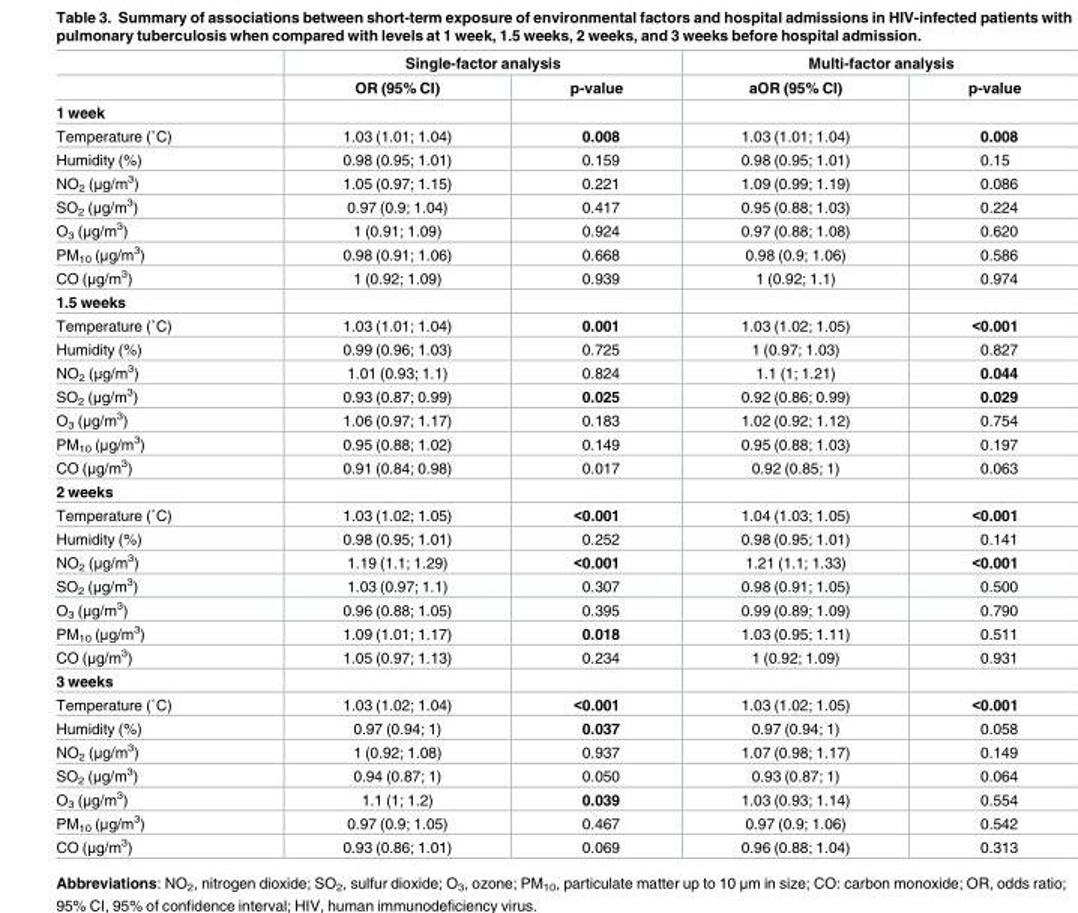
<table><thead><tr><td rowspan="2"></td><td colspan="2">Single-factor analysis</td><td colspan="2">Multi-factor analysis</td></tr><tr><td>OR (95% CI)</td><td>p-value</td><td>aOR (95% CI)</td><td>p-value</td></tr></thead><tbody><tr><td colspan="5">1 week</td></tr><tr><td>Temperature (˚C)</td><td>1.03 (1.01; 1.04)</td><td>0.008</td><td>1.03 (1.01; 1.04)</td><td>0.008</td></tr><tr><td>Humidity (%)</td><td>0.98 (0.95; 1.01)</td><td>0.159</td><td>0.98 (0.95; 1.01)</td><td>0.15</td></tr><tr><td>NO<sub>2</sub> (μg/m<sup>3</sup>)</td><td>1.05 (0.97; 1.15)</td><td>0.221</td><td>1.09 (0.99; 1.19)</td><td>0.086</td></tr><tr><td>SO<sub>2</sub> (μg/m<sup>3</sup>)</td><td>0.97 (0.9; 1.04)</td><td>0.417</td><td>0.95 (0.88; 1.03)</td><td>0.224</td></tr><tr><td>O<sub>3</sub> (μg/m<sup>3</sup>)</td><td>1 (0.91; 1.09)</td><td>0.924</td><td>0.97 (0.88; 1.08)</td><td>0.620</td></tr><tr><td>PM<sub>10</sub> (μg/m<sup>3</sup>)</td><td>0.98 (0.91; 1.06)</td><td>0.668</td><td>0.98 (0.9; 1.06)</td><td>0.586</td></tr><tr><td>CO (μg/m<sup>3</sup>)</td><td>1 (0.92; 1.09)</td><td>0.939</td><td>1 (0.92; 1.1)</td><td>0.974</td></tr><tr><td colspan="5">1.5 weeks</td></tr><tr><td>Temperature (˚C)</td><td>1.03 (1.01; 1.04)</td><td>0.001</td><td>1.03 (1.02; 1.05)</td><td>&lt;0.001</td></tr><tr><td>Humidity (%)</td><td>0.99 (0.96; 1.03)</td><td>0.725</td><td>1 (0.97; 1.03)</td><td>0.827</td></tr><tr><td>NO<sub>2</sub> (μg/m<sup>3</sup>)</td><td>1.01 (0.93; 1.1)</td><td>0.824</td><td>1.1 (1; 1.21)</td><td>0.044</td></tr><tr><td>SO<sub>2</sub> (μg/m<sup>3</sup>)</td><td>0.93 (0.87; 0.99)</td><td>0.025</td><td>0.92 (0.86; 0.99)</td><td>0.029</td></tr><tr><td>O<sub>3</sub> (μg/m<sup>3</sup>)</td><td>1.06 (0.97; 1.17)</td><td>0.183</td><td>1.02 (0.92; 1.12)</td><td>0.754</td></tr><tr><td>PM<sub>10</sub> (μg/m<sup>3</sup>)</td><td>0.95 (0.88; 1.02)</td><td>0.149</td><td>0.95 (0.88; 1.03)</td><td>0.197</td></tr><tr><td>CO (μg/m<sup>3</sup>)</td><td>0.91 (0.84; 0.98)</td><td>0.017</td><td>0.92 (0.85; 1)</td><td>0.063</td></tr><tr><td colspan="5">2 weeks</td></tr><tr><td>Temperature (˚C)</td><td>1.03 (1.02; 1.05)</td><td>&lt;0.001</td><td>1.04 (1.03; 1.05)</td><td>&lt;0.001</td></tr><tr><td>Humidity (%)</td><td>0.98 (0.95; 1.01)</td><td>0.252</td><td>0.98 (0.95; 1.01)</td><td>0.141</td></tr><tr><td>NO<sub>2</sub> (μg/m<sup>3</sup>)</td><td>1.19 (1.1; 1.29)</td><td>&lt;0.001</td><td>1.21 (1.1; 1.33)</td><td>&lt;0.001</td></tr><tr><td>SO<sub>2</sub> (μg/m<sup>3</sup>)</td><td>1.03 (0.97; 1.1)</td><td>0.307</td><td>0.98 (0.91; 1.05)</td><td>0.500</td></tr><tr><td>O<sub>3</sub> (μg/m<sup>3</sup>)</td><td>0.96 (0.88; 1.05)</td><td>0.395</td><td>0.99 (0.89; 1.09)</td><td>0.790</td></tr><tr><td>PM<sub>10</sub> (μg/m<sup>3</sup>)</td><td>1.09 (1.01; 1.17)</td><td>0.018</td><td>1.03 (0.95; 1.11)</td><td>0.511</td></tr><tr><td>CO (μg/m<sup>3</sup>)</td><td>1.05 (0.97; 1.13)</td><td>0.234</td><td>1 (0.92; 1.09)</td><td>0.931</td></tr><tr><td colspan="5">3 weeks</td></tr><tr><td>Temperature (˚C)</td><td>1.03 (1.02; 1.04)</td><td>&lt;0.001</td><td>1.03 (1.02; 1.05)</td><td>&lt;0.001</td></tr><tr><td>Humidity (%)</td><td>0.97 (0.94; 1)</td><td>0.037</td><td>0.97 (0.94; 1)</td><td>0.058</td></tr><tr><td>NO<sub>2</sub> (μg/m<sup>3</sup>)</td><td>1 (0.92; 1.08)</td><td>0.937</td><td>1.07 (0.98; 1.17)</td><td>0.149</td></tr><tr><td>SO<sub>2</sub> (μg/m<sup>3</sup>)</td><td>0.94 (0.87; 1)</td><td>0.050</td><td>0.93 (0.87; 1)</td><td>0.064</td></tr><tr><td>O<sub>3</sub> (μg/m<sup>3</sup>)</td><td>1.1 (1; 1.2)</td><td>0.039</td><td>1.03 (0.93; 1.14)</td><td>0.554</td></tr><tr><td>PM<sub>10</sub> (μg/m<sup>3</sup>)</td><td>0.97 (0.9; 1.05)</td><td>0.467</td><td>0.97 (0.9; 1.06)</td><td>0.542</td></tr><tr><td>CO (μg/m<sup>3</sup>)</td><td>0.93 (0.86; 1.01)</td><td>0.069</td><td>0.96 (0.88; 1.04)</td><td>0.313</td></tr></tbody></table>